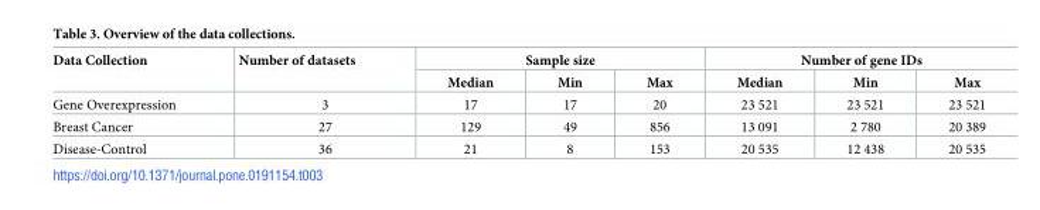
<table><thead><tr><td rowspan="2">Data Collection</td><td rowspan="2">Number of datasets</td><td colspan="3">Sample size</td><td colspan="3">Number of gene IDs</td></tr><tr><td>Median</td><td>Min</td><td>Max</td><td>Median</td><td>Min</td><td>Max</td></tr></thead><tbody><tr><td>Gene Overexpression</td><td>3</td><td>17</td><td>17</td><td>20</td><td>23 521</td><td>23 521</td><td>23 521</td></tr><tr><td>Breast Cancer</td><td>27</td><td>129</td><td>49</td><td>856</td><td>13 091</td><td>2 780</td><td>20 389</td></tr><tr><td>Disease-Control</td><td>36</td><td>21</td><td>8</td><td>153</td><td>20 535</td><td>12 438</td><td>20 535</td></tr></tbody></table>